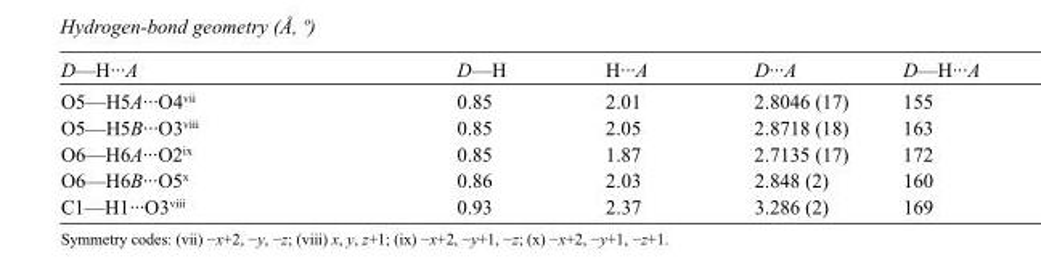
<table><tbody><tr><td>D—H···A</td><td>D—H</td><td>H···A</td><td>D···A</td><td>D—H···A</td></tr><tr><td>O5—H5A···O4<sup>vii</sup></td><td>0.85</td><td>2.01</td><td>2.8046 (17)</td><td>155</td></tr><tr><td>O5—H5B···O3<sup>viii</sup></td><td>0.85</td><td>2.05</td><td>2.8718 (18)</td><td>163</td></tr><tr><td>O6—H6A···O2<sup>ix</sup></td><td>0.85</td><td>1.87</td><td>2.7135 (17)</td><td>172</td></tr><tr><td>O6—H6B···O5<sup>x</sup></td><td>0.86</td><td>2.03</td><td>2.848 (2)</td><td>160</td></tr><tr><td>C1—H1···O3<sup>viii</sup></td><td>0.93</td><td>2.37</td><td>3.286 (2)</td><td>169</td></tr></tbody></table>